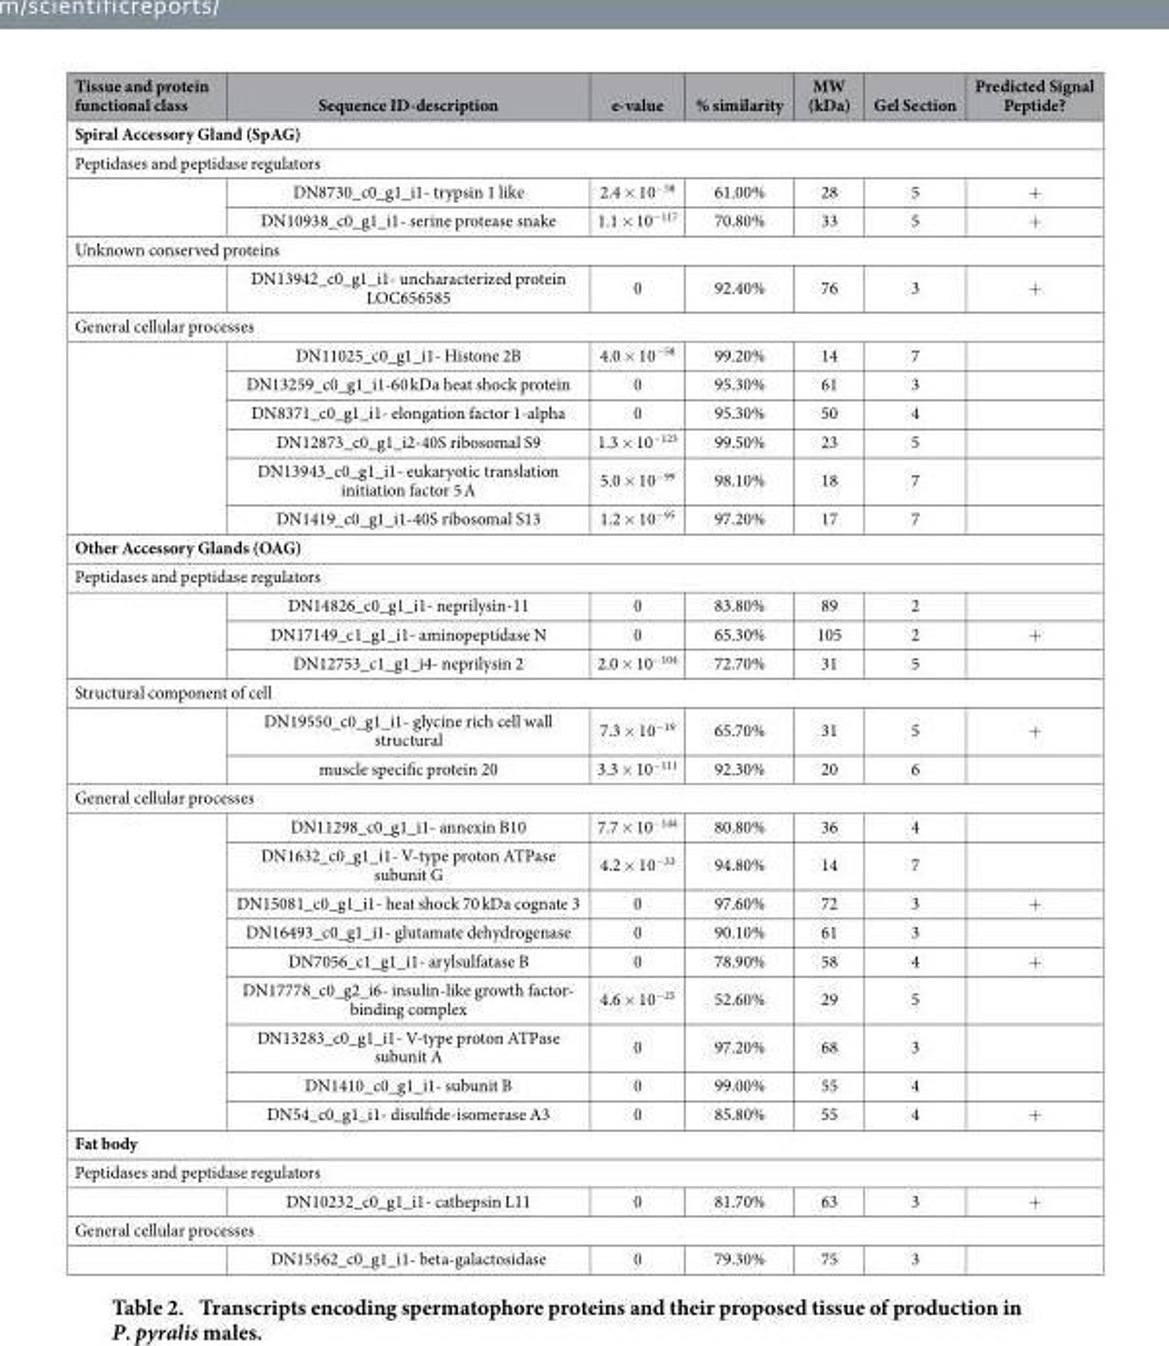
<table><thead><tr><td>Tissue and protein functional class</td><td>Sequence ID-description</td><td>e-value</td><td>% similarity</td><td>MW (kDa)</td><td>Gel Section</td><td>Predicted Signal Peptide?</td></tr></thead><tbody><tr><td colspan="7">Spiral Accessory Gland (SpAG)</td></tr><tr><td colspan="7">Peptidases and peptidase regulators</td></tr><tr><td rowspan="2"></td><td>DN8730_c0_g1_i1- trypsin 1 like</td><td>2.4 × 10<sup>−58</sup></td><td>61.00%</td><td>28</td><td>5</td><td>+</td></tr><tr><td>DN10938_c0_g1_i1- serine protease snake</td><td>1.1 × 10<sup>−117</sup></td><td>70.80%</td><td>33</td><td>5</td><td>+</td></tr><tr><td colspan="7">Unknown conserved proteins</td></tr><tr><td></td><td>DN13942_c0_g1_i1- uncharacterized protein LOC656585</td><td>0</td><td>92.40%</td><td>76</td><td>3</td><td>+</td></tr><tr><td colspan="7">General cellular processes</td></tr><tr><td rowspan="6"></td><td>DN11025_c0_g1_i1- Histone 2B</td><td>4.0 × 10<sup>−58</sup></td><td>99.20%</td><td>14</td><td>7</td><td></td></tr><tr><td>DN13259_c0_g1_i1-60 kDa heat shock protein</td><td>0</td><td>95.30%</td><td>61</td><td>3</td><td></td></tr><tr><td>DN8371_c0_g1_i1- elongation factor 1-alpha</td><td>0</td><td>95.30%</td><td>50</td><td>4</td><td></td></tr><tr><td>DN12873_c0_g1_i2-40S ribosomal S9</td><td>1.3 × 10<sup>−123</sup></td><td>99.50%</td><td>23</td><td>5</td><td></td></tr><tr><td>DN13943_c0_g1_i1- eukaryotic translation initiation factor 5 A</td><td>5.0 × 10<sup>−99</sup></td><td>98.10%</td><td>18</td><td>7</td><td></td></tr><tr><td>DN1419_c0_g1_i1-40S ribosomal S13</td><td>1.2 × 10<sup>−95</sup></td><td>97.20%</td><td>17</td><td>7</td><td></td></tr><tr><td colspan="7">Other Accessory Glands (OAG)</td></tr><tr><td colspan="7">Peptidases and peptidase regulators</td></tr><tr><td rowspan="3"></td><td>DN14826_c0_g1_i1- neprilysin-11</td><td>0</td><td>83.80%</td><td>89</td><td>2</td><td></td></tr><tr><td>DN17149_c1_g1_i1- aminopeptidase N</td><td>0</td><td>65.30%</td><td>105</td><td>2</td><td>+</td></tr><tr><td>DN12753_c1_g1_i4- neprilysin 2</td><td>2.0 × 10<sup>−104</sup></td><td>72.70%</td><td>31</td><td>5</td><td></td></tr><tr><td colspan="7">Structural component of cell</td></tr><tr><td rowspan="2"></td><td>DN19550_c0_g1_i1- glycine rich cell wall structural</td><td>7.3 × 10<sup>−19</sup></td><td>65.70%</td><td>31</td><td>5</td><td>+</td></tr><tr><td>muscle specific protein 20</td><td>3.3 × 10<sup>−111</sup></td><td>92.30%</td><td>20</td><td>6</td><td></td></tr><tr><td colspan="7">General cellular processes</td></tr><tr><td rowspan="9"></td><td>DN11298_c0_g1_i1- annexin B10</td><td>7.7 × 10<sup>−144</sup></td><td>80.80%</td><td>36</td><td>4</td><td></td></tr><tr><td>DN1632_c0_g1_i1- V-type proton ATPase subunit G</td><td>4.2 × 10<sup>−33</sup></td><td>94.80%</td><td>14</td><td>7</td><td></td></tr><tr><td>DN15081_c0_g1_i1- heat shock 70 kDa cognate 3</td><td>0</td><td>97.60%</td><td>72</td><td>3</td><td>+</td></tr><tr><td>DN16493_c0_g1_i1- glutamate dehydrogenase</td><td>0</td><td>90.10%</td><td>61</td><td>3</td><td></td></tr><tr><td>DN7056_c1_g1_i1- arylsulfatase B</td><td>0</td><td>78.90%</td><td>58</td><td>4</td><td>+</td></tr><tr><td>DN17778_c0_g2_i6- insulin-like growth factor- binding complex</td><td>4.6 × 10<sup>−25</sup></td><td>52.60%</td><td>29</td><td>5</td><td></td></tr><tr><td>DN13283_c0_g1_i1- V-type proton ATPase subunit A</td><td>0</td><td>97.20%</td><td>68</td><td>3</td><td></td></tr><tr><td>DN1410_c0_g1_i1- subunit B</td><td>0</td><td>99.00%</td><td>55</td><td>4</td><td></td></tr><tr><td>DN54_c0_g1_i1- disulfide-isomerase A3</td><td>0</td><td>85.80%</td><td>55</td><td>4</td><td>+</td></tr><tr><td colspan="7">Fat body</td></tr><tr><td colspan="7">Peptidases and peptidase regulators</td></tr><tr><td></td><td>DN10232_c0_g1_i1- cathepsin L11</td><td>0</td><td>81.70%</td><td>63</td><td>3</td><td>+</td></tr><tr><td colspan="7">General cellular processes</td></tr><tr><td></td><td>DN15562_c0_g1_i1- beta-galactosidase</td><td>0</td><td>79.30%</td><td>75</td><td>3</td><td></td></tr></tbody></table>